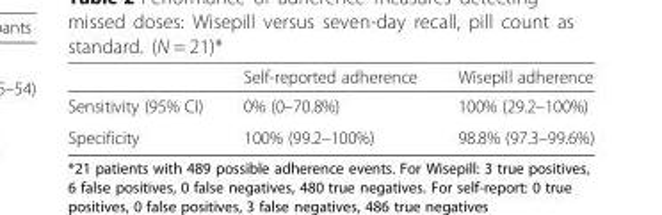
<table><thead><tr><td></td><td>Self-reported adherence</td><td>Wisepill adherence</td></tr></thead><tbody><tr><td>Sensitivity (95% CI)</td><td>0% (0–70.8%)</td><td>100% (29.2–100%)</td></tr><tr><td>Specificity</td><td>100% (99.2–100%)</td><td>98.8% (97.3–99.6%)</td></tr></tbody></table>